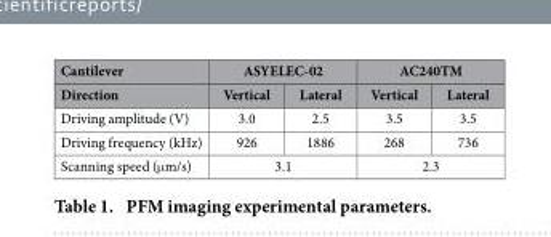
<table><thead><tr><td rowspan="2">Cantilever Direction</td><td colspan="2">ASYELEC-02</td><td colspan="2">AC240TM</td></tr><tr><td>Vertical</td><td>Lateral</td><td>Vertical</td><td>Lateral</td></tr></thead><tbody><tr><td>Driving amplitude (V)</td><td>3.0</td><td>2.5</td><td>3.5</td><td>3.5</td></tr><tr><td>Driving frequency (kHz)</td><td>926</td><td>1886</td><td>268</td><td>736</td></tr><tr><td>Scanning speed (μ m/s)</td><td colspan="2">3.1</td><td colspan="2">2.3</td></tr></tbody></table>